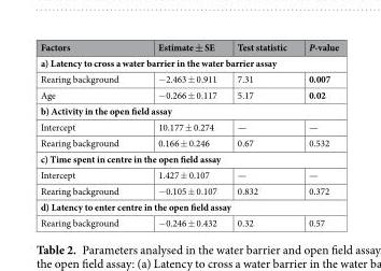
<table><thead><tr><td>Factors</td><td>Estimate ± SE</td><td>Test statistic</td><td>P-value</td></tr></thead><tbody><tr><td colspan="4">a) Latency to cross a water barrier in the water barrier assay</td></tr><tr><td>Rearing background</td><td>−2.463 ± 0.911</td><td>7.31</td><td>0.007</td></tr><tr><td>Age</td><td>−0.266 ± 0.117</td><td>5.17</td><td>0.02</td></tr><tr><td colspan="4">b) Activity in the open field assay</td></tr><tr><td>Intercept</td><td>10.177 ± 0.274</td><td>—</td><td>—</td></tr><tr><td>Rearing background</td><td>0.166 ± 0.246</td><td>0.67</td><td>0.532</td></tr><tr><td colspan="4">c) Time spent in centre in the open field assay</td></tr><tr><td>Intercept</td><td>1.427 ± 0.107</td><td>—</td><td>—</td></tr><tr><td>Rearing background</td><td>−0.105 ± 0.107</td><td>0.832</td><td>0.372</td></tr><tr><td colspan="4">d) Latency to enter centre in the open field assay</td></tr><tr><td>Rearing background</td><td>−0.246 ± 0.432</td><td>0.32</td><td>0.57</td></tr></tbody></table>